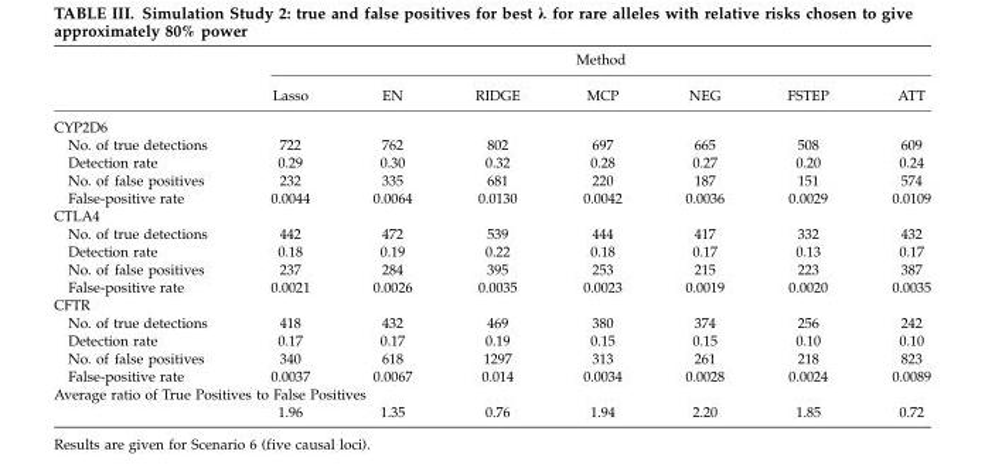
<table><thead><tr><td rowspan="2"></td><td colspan="7">Method</td></tr><tr><td>Lasso</td><td>EN</td><td>RIDGE</td><td>MCP</td><td>NEG</td><td>FSTEP</td><td>ATT</td></tr></thead><tbody><tr><td colspan="8">CYP2D6</td></tr><tr><td>No. of true detections</td><td>722</td><td>762</td><td>802</td><td>697</td><td>665</td><td>508</td><td>609</td></tr><tr><td>Detection rate</td><td>0.29</td><td>0.30</td><td>0.32</td><td>0.28</td><td>0.27</td><td>0.20</td><td>0.24</td></tr><tr><td>No. of false positives</td><td>232</td><td>335</td><td>681</td><td>220</td><td>187</td><td>151</td><td>574</td></tr><tr><td>False-positive rate</td><td>0.0044</td><td>0.0064</td><td>0.0130</td><td>0.0042</td><td>0.0036</td><td>0.0029</td><td>0.0109</td></tr><tr><td colspan="8">CTLA4</td></tr><tr><td>No. of true detections</td><td>442</td><td>472</td><td>539</td><td>444</td><td>417</td><td>332</td><td>432</td></tr><tr><td>Detection rate</td><td>0.18</td><td>0.19</td><td>0.22</td><td>0.18</td><td>0.17</td><td>0.13</td><td>0.17</td></tr><tr><td>No. of false positives</td><td>237</td><td>284</td><td>395</td><td>253</td><td>215</td><td>223</td><td>387</td></tr><tr><td>False-positive rate</td><td>0.0021</td><td>0.0026</td><td>0.0035</td><td>0.0023</td><td>0.0019</td><td>0.0020</td><td>0.0035</td></tr><tr><td colspan="8">CFTR</td></tr><tr><td>No. of true detections</td><td>418</td><td>432</td><td>469</td><td>380</td><td>374</td><td>256</td><td>242</td></tr><tr><td>Detection rate</td><td>0.17</td><td>0.17</td><td>0.19</td><td>0.15</td><td>0.15</td><td>0.10</td><td>0.10</td></tr><tr><td>No. of false positives</td><td>340</td><td>618</td><td>1297</td><td>313</td><td>261</td><td>218</td><td>823</td></tr><tr><td>False-positive rate</td><td>0.0037</td><td>0.0067</td><td>0.014</td><td>0.0034</td><td>0.0028</td><td>0.0024</td><td>0.0089</td></tr><tr><td colspan="8">Average ratio of True Positives to False Positives</td></tr><tr><td></td><td>1.96</td><td>1.35</td><td>0.76</td><td>1.94</td><td>2.20</td><td>1.85</td><td>0.72</td></tr></tbody></table>